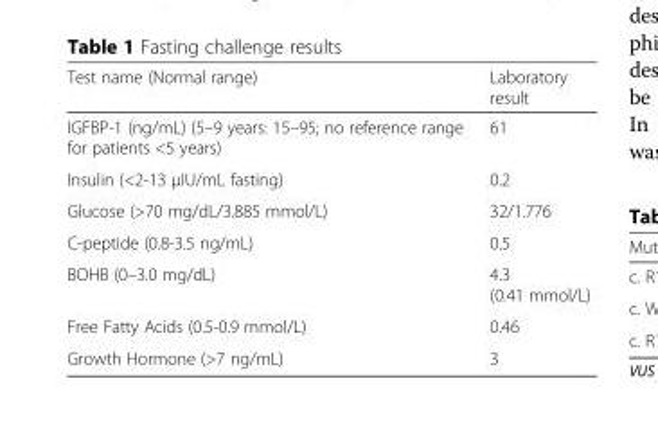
<table><thead><tr><td>Test name (Normal range)</td><td>Laboratory result</td></tr></thead><tbody><tr><td>IGFBP-1 (ng/mL) (5–9 years: 15–95; no reference range for patients &lt;5 years)</td><td>61</td></tr><tr><td>Insulin (&lt;2-13 μIU/mL fasting)</td><td>0.2</td></tr><tr><td>Glucose (&gt;70 mg/dL/3.885 mmol/L)</td><td>32/1.776</td></tr><tr><td>C-peptide (0.8-3.5 ng/mL)</td><td>0.5</td></tr><tr><td>BOHB (0–3.0 mg/dL)</td><td>4.3 (0.41 mmol/L)</td></tr><tr><td>Free Fatty Acids (0.5-0.9 mmol/L)</td><td>0.46</td></tr><tr><td>Growth Hormone (&gt;7 ng/mL)</td><td>3</td></tr></tbody></table>